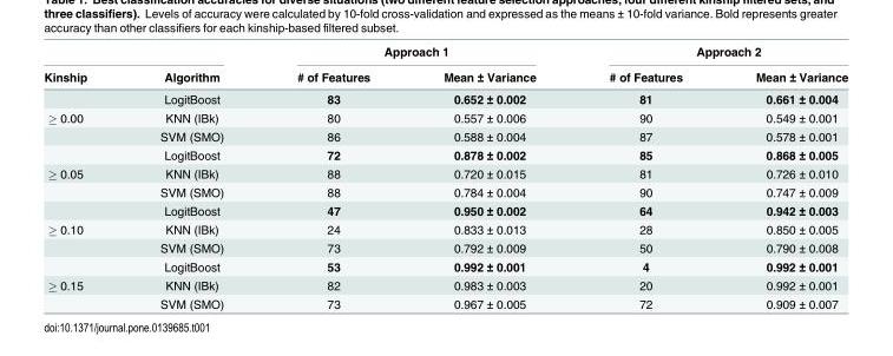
<table><thead><tr><td rowspan="2">Kinship</td><td rowspan="2">Algorithm</td><td colspan="2">Approach 1</td><td colspan="2">Approach 2</td></tr><tr><td># of Features</td><td>Mean ± Variance</td><td># of Features</td><td>Mean ± Variance</td></tr></thead><tbody><tr><td></td><td>LogitBoost</td><td>83</td><td>0.652 ± 0.002</td><td>81</td><td>0.661 ± 0.004</td></tr><tr><td rowspan="3">≥ 0.00</td><td>KNN (IBk)</td><td>80</td><td>0.557 ± 0.006</td><td>90</td><td>0.549 ± 0.001</td></tr><tr><td>SVM (SMO)</td><td>86</td><td>0.588 ± 0.004</td><td>87</td><td>0.578 ± 0.001</td></tr><tr><td>LogitBoost</td><td>72</td><td>0.878 ± 0.002</td><td>85</td><td>0.868 ± 0.005</td></tr><tr><td rowspan="3">≥ 0.05</td><td>KNN (IBk)</td><td>88</td><td>0.720 ± 0.015</td><td>81</td><td>0.726 ± 0.010</td></tr><tr><td>SVM (SMO)</td><td>88</td><td>0.784 ± 0.004</td><td>90</td><td>0.747 ± 0.009</td></tr><tr><td>LogitBoost</td><td>47</td><td>0.950 ± 0.002</td><td>64</td><td>0.942 ± 0.003</td></tr><tr><td rowspan="3">≥ 0.10</td><td>KNN (IBk)</td><td>24</td><td>0.833 ± 0.013</td><td>28</td><td>0.850 ± 0.005</td></tr><tr><td>SVM (SMO)</td><td>73</td><td>0.792 ± 0.009</td><td>50</td><td>0.790 ± 0.008</td></tr><tr><td>LogitBoost</td><td>53</td><td>0.992 ± 0.001</td><td>4</td><td>0.992 ± 0.001</td></tr><tr><td rowspan="2">≥ 0.15</td><td>KNN (IBk)</td><td>82</td><td>0.983 ± 0.003</td><td>20</td><td>0.992 ± 0.001</td></tr><tr><td>SVM (SMO)</td><td>73</td><td>0.967 ± 0.005</td><td>72</td><td>0.909 ± 0.007</td></tr></tbody></table>